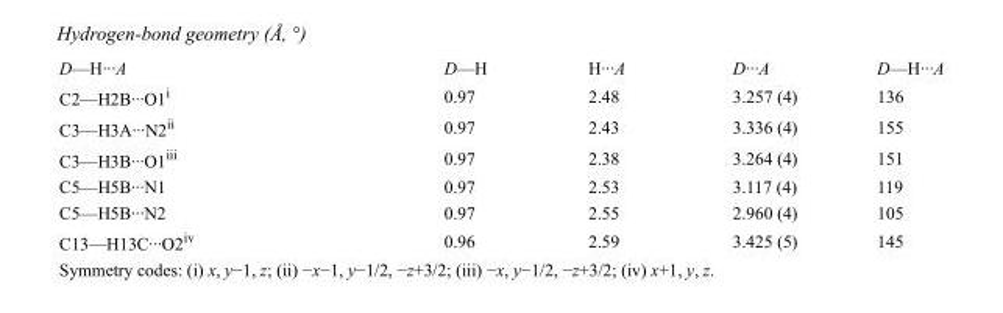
<table><tbody><tr><td>D—H···A</td><td>D—H</td><td>H···A</td><td>D···A</td><td>D—H···A</td></tr><tr><td>C2—H2B···O1<sup>i</sup></td><td>0.97</td><td>2.48</td><td>3.257 (4)</td><td>136</td></tr><tr><td>C3—H3A···N2<sup>ii</sup></td><td>0.97</td><td>2.43</td><td>3.336 (4)</td><td>155</td></tr><tr><td>C3—H3B···O1<sup>iii</sup></td><td>0.97</td><td>2.38</td><td>3.264 (4)</td><td>151</td></tr><tr><td>C5—H5B···N1</td><td>0.97</td><td>2.53</td><td>3.117 (4)</td><td>119</td></tr><tr><td>C5—H5B···N2</td><td>0.97</td><td>2.55</td><td>2.960 (4)</td><td>105</td></tr><tr><td>C13—H13C···O2<sup>iv</sup></td><td>0.96</td><td>2.59</td><td>3.425 (5)</td><td>145</td></tr></tbody></table>